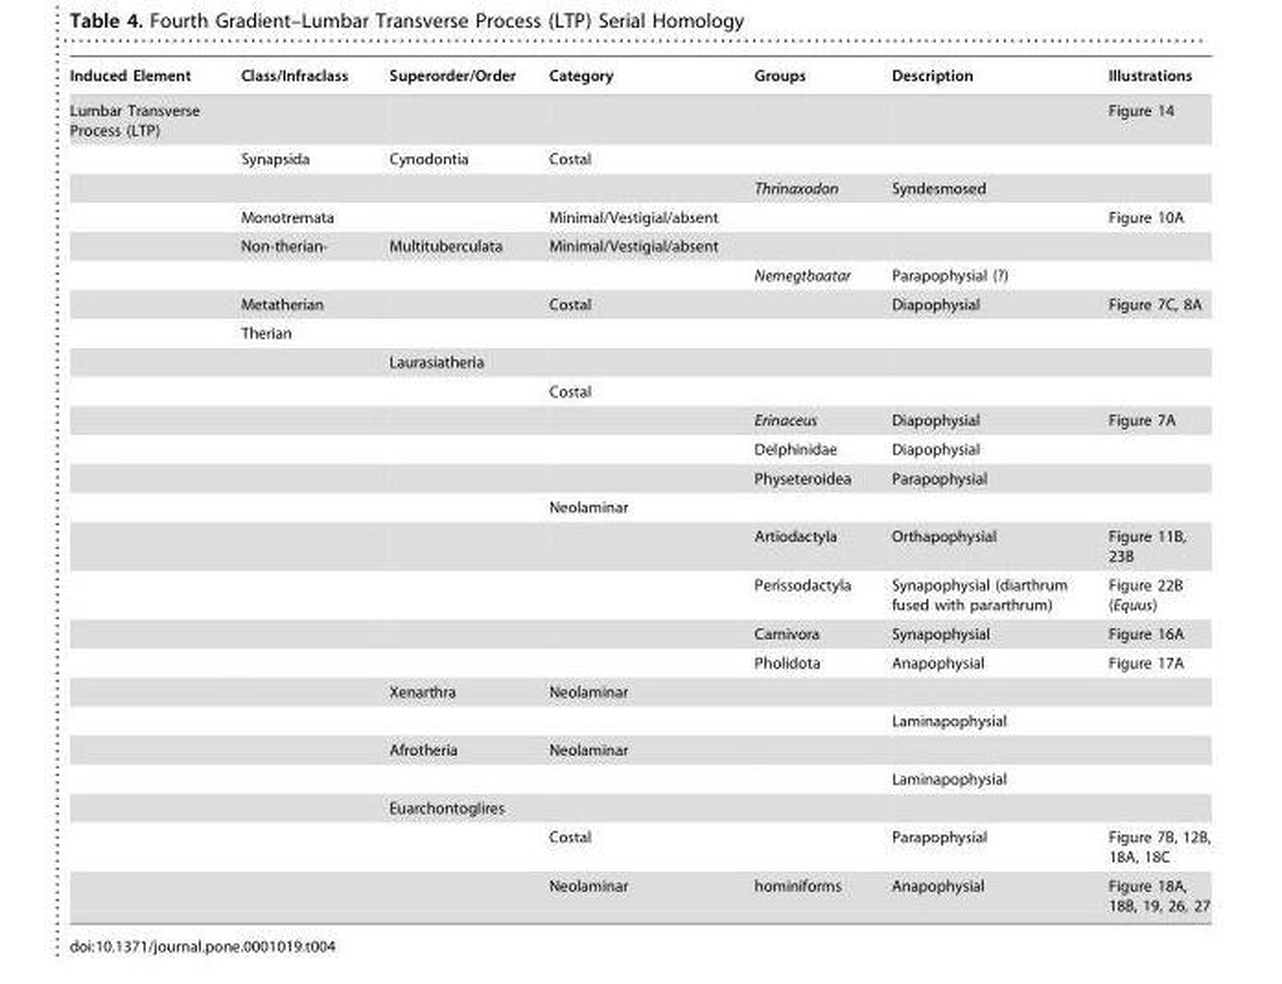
<table><thead><tr><td>Induced Element</td><td>Class/Infraclass</td><td>Superorder/Order</td><td>Category</td><td>Groups</td><td>Description</td><td>Illustrations</td></tr></thead><tbody><tr><td rowspan="25">Lumbar Transverse Process (LTP)</td><td></td><td></td><td></td><td></td><td></td><td>Figure 14</td></tr><tr><td>Synapsida</td><td>Cynodontia</td><td>Costal</td><td></td><td></td><td></td></tr><tr><td></td><td></td><td></td><td>Thrinaxodon</td><td>Syndesmosed</td><td></td></tr><tr><td>Monotremata</td><td></td><td>Minimal/Vestigial/absent</td><td></td><td></td><td>Figure 10A</td></tr><tr><td>Non-therian-</td><td>Multituberculata</td><td>Minimal/Vestigial/absent</td><td></td><td></td><td></td></tr><tr><td></td><td></td><td></td><td>Nemegtbaatar</td><td>Parapophysial (?)</td><td></td></tr><tr><td>Metatherian</td><td></td><td>Costal</td><td></td><td>Diapophysial</td><td>Figure 7C, 8A</td></tr><tr><td>Therian</td><td></td><td></td><td></td><td></td><td></td></tr><tr><td></td><td>Laurasiatheria</td><td></td><td></td><td></td><td></td></tr><tr><td></td><td></td><td>Costal</td><td></td><td></td><td></td></tr><tr><td></td><td></td><td></td><td>Erinaceus</td><td>Diapophysial</td><td>Figure 7A</td></tr><tr><td></td><td></td><td></td><td>Delphinidae</td><td>Diapophysial</td><td></td></tr><tr><td></td><td></td><td></td><td>Physeteroidea</td><td>Parapophysial</td><td></td></tr><tr><td></td><td></td><td>Neolaminar</td><td></td><td></td><td></td></tr><tr><td></td><td></td><td></td><td>Artiodactyla</td><td>Orthapophysial</td><td>Figure 11B, 23B</td></tr><tr><td></td><td></td><td></td><td>Perissodactyla</td><td>Synapophysial (diarthrum fused with pararthrum)</td><td>Figure 22B (Equus)</td></tr><tr><td></td><td></td><td></td><td>Carnivora</td><td>Synapophysial</td><td>Figure 16A</td></tr><tr><td></td><td></td><td></td><td>Pholidota</td><td>Anapophysial</td><td>Figure 17A</td></tr><tr><td></td><td>Xenarthra</td><td>Neolaminar</td><td></td><td></td><td></td></tr><tr><td></td><td></td><td></td><td></td><td>Laminapophysial</td><td></td></tr><tr><td></td><td>Afrotheria</td><td>Neolaminar</td><td></td><td></td><td></td></tr><tr><td></td><td></td><td></td><td></td><td>Laminapophysial</td><td></td></tr><tr><td></td><td>Euarchontoglires</td><td></td><td></td><td></td><td></td></tr><tr><td></td><td></td><td>Costal</td><td></td><td>Parapophysial</td><td>Figure 7B, 12B, 18A, 18C</td></tr><tr><td></td><td></td><td>Neolaminar</td><td>hominiforms</td><td>Anapophysial</td><td>Figure 18A, 18B, 19, 26, 27</td></tr></tbody></table>